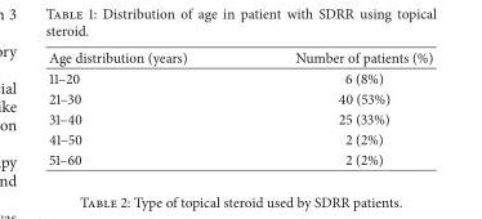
<table><thead><tr><td>Age distribution (years)</td><td>Number of patients (%)</td></tr></thead><tbody><tr><td>11–20</td><td>6 (8%)</td></tr><tr><td>21–30</td><td>40 (53%)</td></tr><tr><td>31–40</td><td>25 (33%)</td></tr><tr><td>41–50</td><td>2 (2%)</td></tr><tr><td>51–60</td><td>2 (2%)</td></tr></tbody></table>